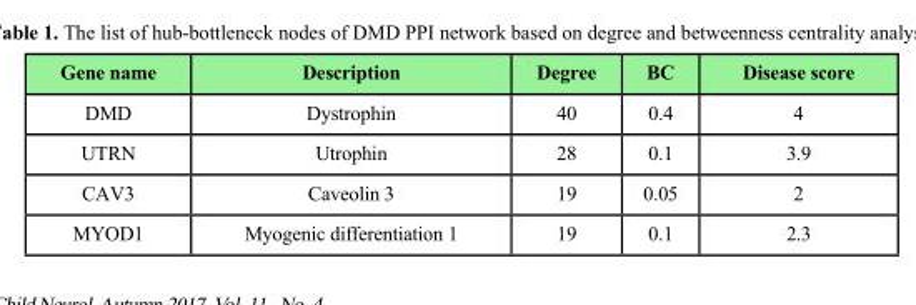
<table><thead><tr><td>Gene name</td><td>Description</td><td>Degree</td><td>BC</td><td>Disease score</td></tr></thead><tbody><tr><td>DMD</td><td>Dystrophin</td><td>40</td><td>0.4</td><td>4</td></tr><tr><td>UTRN</td><td>Utrophin</td><td>28</td><td>0.1</td><td>3.9</td></tr><tr><td>CAV3</td><td>Caveolin 3</td><td>19</td><td>0.05</td><td>2</td></tr><tr><td>MYOD1</td><td>Myogenic differentiation 1</td><td>19</td><td>0.1</td><td>2.3</td></tr></tbody></table>